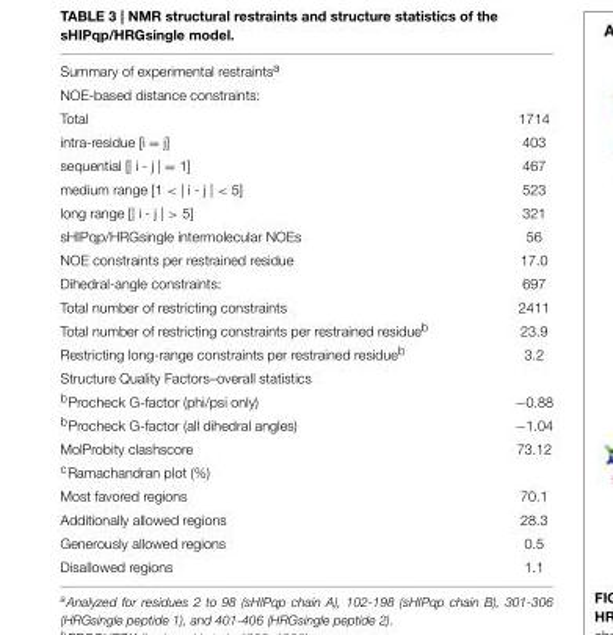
<table><tbody><tr><td colspan="2">Summary of experimental restraints<sup>a</sup></td></tr><tr><td colspan="2">NOE-based distance constraints:</td></tr><tr><td>Total</td><td>1714</td></tr><tr><td>intra-residue [i = j]</td><td>403</td></tr><tr><td>sequential [| i - j | = 1]</td><td>467</td></tr><tr><td>medium range [1 &lt; | i - j | &lt; 5]</td><td>523</td></tr><tr><td>long range [| i - j | &gt; 5]</td><td>321</td></tr><tr><td>sHIPqp/HRGsingle intermolecular NOEs</td><td>56</td></tr><tr><td>NOE constraints per restrained residue</td><td>17.0</td></tr><tr><td>Dihedral-angle constraints:</td><td>697</td></tr><tr><td>Total number of restricting constraints</td><td>2411</td></tr><tr><td>Total number of restricting constraints per restrained residue<sup>b</sup></td><td>23.9</td></tr><tr><td>Restricting long-range constraints per restrained residue<sup>b</sup></td><td>3.2</td></tr><tr><td colspan="2">Structure Quality Factors–overall statistics</td></tr><tr><td><sup>b</sup>Procheck G-factor (phi/psi only)</td><td>−0.88</td></tr><tr><td><sup>b</sup>Procheck G-factor (all dihedral angles)</td><td>−1.04</td></tr><tr><td>MolProbity clashscore</td><td>73.12</td></tr><tr><td colspan="2"><sup>c</sup>Ramachandran plot (%)</td></tr><tr><td>Most favored regions</td><td>70.1</td></tr><tr><td>Additionally allowed regions</td><td>28.3</td></tr><tr><td>Generously allowed regions</td><td>0.5</td></tr><tr><td>Disallowed regions</td><td>1.1</td></tr></tbody></table>